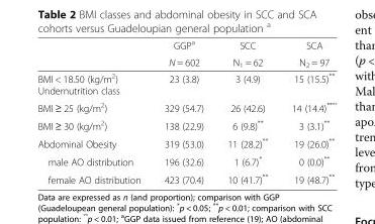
<table><thead><tr><td rowspan="2"></td><td rowspan="2">GGP<sup>a</sup> N = 602</td><td rowspan="2">SCC N<sub>1</sub> = 62</td><td rowspan="2">SCA N<sub>2</sub> = 97</td></tr><tr></tr></thead><tbody><tr><td>BMI &lt; 18.50 (kg/m<sup>2</sup>) Undernutrition class</td><td>23 (3.8)</td><td>3 (4.9)</td><td>15 (15.5)**</td></tr><tr><td>BMI ≥ 25 (kg/m<sup>2</sup>)</td><td>329 (54.7)</td><td>26 (42.6)</td><td>14 (14.4)<sup>**°°</sup></td></tr><tr><td>BMI ≥ 30 (kg/m<sup>2</sup>)</td><td>138 (22.9)</td><td>6 (9.8)**</td><td>3 (3.1)**</td></tr><tr><td>Abdominal Obesity</td><td>319 (53.0)</td><td>11 (28.2)**</td><td>19 (26.0)**</td></tr><tr><td>male AO distribution</td><td>196 (32.6)</td><td>1 (6.7)*</td><td>0 (0.0)**</td></tr><tr><td>female AO distribution</td><td>423 (70.4)</td><td>10 (41.7)**</td><td>19 (48.7)**</td></tr></tbody></table>